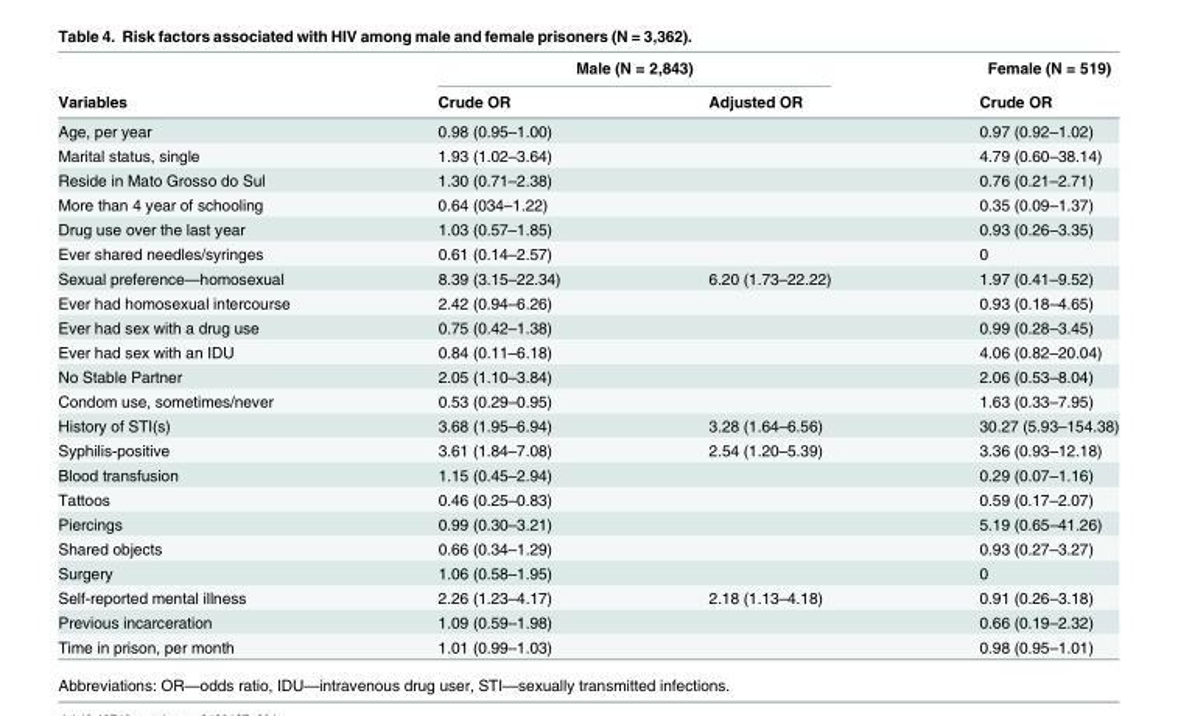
<table><thead><tr><td rowspan="2">Variables</td><td colspan="2">Male (N = 2,843)</td><td rowspan="2">Female (N = 519) Crude OR</td></tr><tr><td>Crude OR</td><td>Adjusted OR</td></tr></thead><tbody><tr><td>Age, per year</td><td>0.98 (0.95–1.00)</td><td></td><td>0.97 (0.92–1.02)</td></tr><tr><td>Marital status, single</td><td>1.93 (1.02–3.64)</td><td></td><td>4.79 (0.60–38.14)</td></tr><tr><td>Reside in Mato Grosso do Sul</td><td>1.30 (0.71–2.38)</td><td></td><td>0.76 (0.21–2.71)</td></tr><tr><td>More than 4 year of schooling</td><td>0.64 (034–1.22)</td><td></td><td>0.35 (0.09–1.37)</td></tr><tr><td>Drug use over the last year</td><td>1.03 (0.57–1.85)</td><td></td><td>0.93 (0.26–3.35)</td></tr><tr><td>Ever shared needles/syringes</td><td>0.61 (0.14–2.57)</td><td></td><td>0</td></tr><tr><td>Sexual preference—homosexual</td><td>8.39 (3.15–22.34)</td><td>6.20 (1.73–22.22)</td><td>1.97 (0.41–9.52)</td></tr><tr><td>Ever had homosexual intercourse</td><td>2.42 (0.94–6.26)</td><td></td><td>0.93 (0.18–4.65)</td></tr><tr><td>Ever had sex with a drug use</td><td>0.75 (0.42–1.38)</td><td></td><td>0.99 (0.28–3.45)</td></tr><tr><td>Ever had sex with an IDU</td><td>0.84 (0.11–6.18)</td><td></td><td>4.06 (0.82–20.04)</td></tr><tr><td>No Stable Partner</td><td>2.05 (1.10–3.84)</td><td></td><td>2.06 (0.53–8.04)</td></tr><tr><td>Condom use, sometimes/never</td><td>0.53 (0.29–0.95)</td><td></td><td>1.63 (0.33–7.95)</td></tr><tr><td>History of STI(s)</td><td>3.68 (1.95–6.94)</td><td>3.28 (1.64–6.56)</td><td>30.27 (5.93–154.38)</td></tr><tr><td>Syphilis-positive</td><td>3.61 (1.84–7.08)</td><td>2.54 (1.20–5.39)</td><td>3.36 (0.93–12.18)</td></tr><tr><td>Blood transfusion</td><td>1.15 (0.45–2.94)</td><td></td><td>0.29 (0.07–1.16)</td></tr><tr><td>Tattoos</td><td>0.46 (0.25–0.83)</td><td></td><td>0.59 (0.17–2.07)</td></tr><tr><td>Piercings</td><td>0.99 (0.30–3.21)</td><td></td><td>5.19 (0.65–41.26)</td></tr><tr><td>Shared objects</td><td>0.66 (0.34–1.29)</td><td></td><td>0.93 (0.27–3.27)</td></tr><tr><td>Surgery</td><td>1.06 (0.58–1.95)</td><td></td><td>0</td></tr><tr><td>Self-reported mental illness</td><td>2.26 (1.23–4.17)</td><td>2.18 (1.13–4.18)</td><td>0.91 (0.26–3.18)</td></tr><tr><td>Previous incarceration</td><td>1.09 (0.59–1.98)</td><td></td><td>0.66 (0.19–2.32)</td></tr><tr><td>Time in prison, per month</td><td>1.01 (0.99–1.03)</td><td></td><td>0.98 (0.95–1.01)</td></tr></tbody></table>